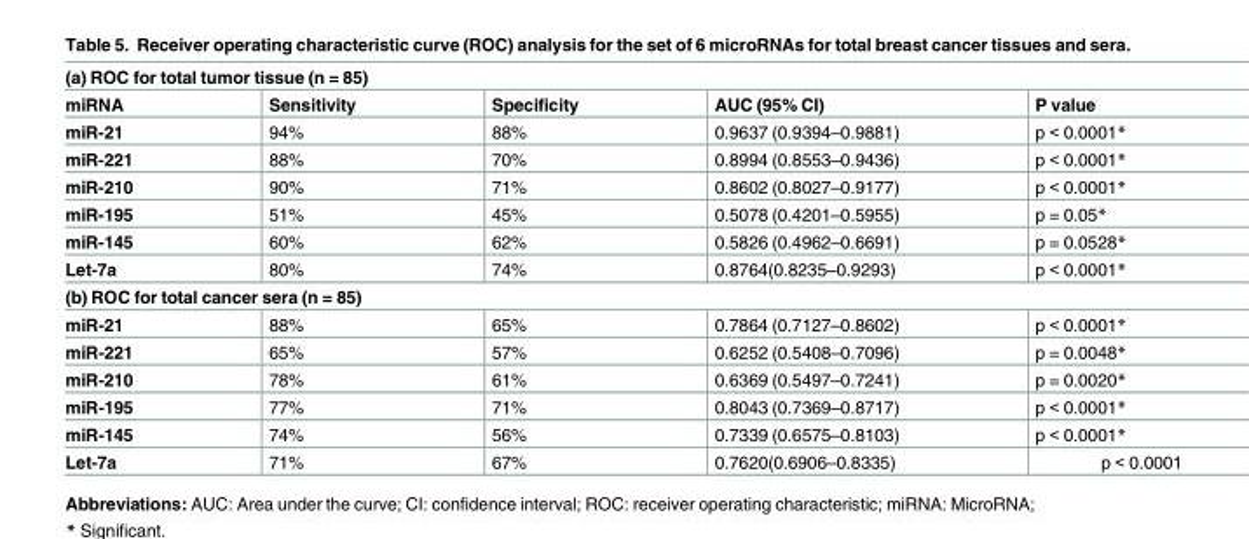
<table><tbody><tr><td colspan="5">(a) ROC for total tumor tissue (n = 85)</td></tr><tr><td>miRNA</td><td>Sensitivity</td><td>Specificity</td><td>AUC (95% CI)</td><td>P value</td></tr><tr><td>miR-21</td><td>94%</td><td>88%</td><td>0.9637 (0.9394–0.9881)</td><td>p &lt; 0.0001*</td></tr><tr><td>miR-221</td><td>88%</td><td>70%</td><td>0.8994 (0.8553–0.9436)</td><td>p &lt; 0.0001*</td></tr><tr><td>miR-210</td><td>90%</td><td>71%</td><td>0.8602 (0.8027–0.9177)</td><td>p &lt; 0.0001*</td></tr><tr><td>miR-195</td><td>51%</td><td>45%</td><td>0.5078 (0.4201–0.5955)</td><td>p = 0.05*</td></tr><tr><td>miR-145</td><td>60%</td><td>62%</td><td>0.5826 (0.4962–0.6691)</td><td>p = 0.0528*</td></tr><tr><td>Let-7a</td><td>80%</td><td>74%</td><td>0.8764(0.8235–0.9293)</td><td>p &lt; 0.0001*</td></tr><tr><td colspan="5">(b) ROC for total cancer sera (n = 85)</td></tr><tr><td>miR-21</td><td>88%</td><td>65%</td><td>0.7864 (0.7127–0.8602)</td><td>p &lt; 0.0001*</td></tr><tr><td>miR-221</td><td>65%</td><td>57%</td><td>0.6252 (0.5408–0.7096)</td><td>p = 0.0048*</td></tr><tr><td>miR-210</td><td>78%</td><td>61%</td><td>0.6369 (0.5497–0.7241)</td><td>p = 0.0020*</td></tr><tr><td>miR-195</td><td>77%</td><td>71%</td><td>0.8043 (0.7369–0.8717)</td><td>p &lt; 0.0001*</td></tr><tr><td>miR-145</td><td>74%</td><td>56%</td><td>0.7339 (0.6575–0.8103)</td><td>p &lt; 0.0001*</td></tr><tr><td>Let-7a</td><td>71%</td><td>67%</td><td>0.7620(0.6906–0.8335)</td><td>p &lt; 0.0001</td></tr></tbody></table>